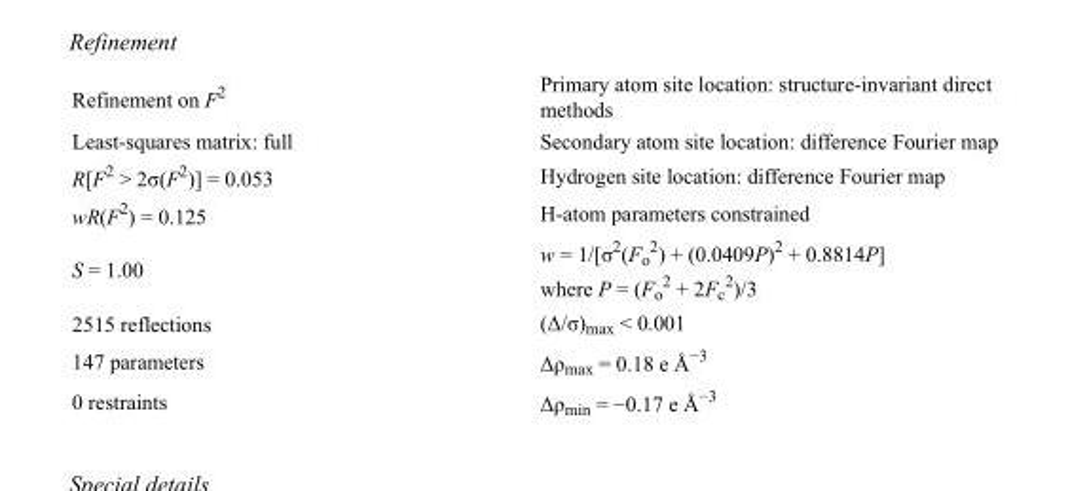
<table><tbody><tr><td>Refinement on F<sup>2</sup></td><td>Primary atom site location: structure-invariant direct methods</td></tr><tr><td>Least-squares matrix: full</td><td>Secondary atom site location: difference Fourier map</td></tr><tr><td>R[F<sup>2</sup> &gt; 2σ(F<sup>2</sup>)] = 0.053</td><td>Hydrogen site location: difference Fourier map</td></tr><tr><td>wR(F<sup>2</sup>) = 0.125</td><td>H-atom parameters constrained</td></tr><tr><td>S = 1.00</td><td>w = 1/[σ<sup>2</sup>(F<sub>o</sub> <sup>2</sup>) + (0.0409P)<sup>2</sup> + 0.8814P] where P = (F<sub>o</sub> <sup>2</sup> + 2F<sub>c</sub> <sup>2</sup>)/3</td></tr><tr><td>2515 reflections</td><td>(Δ/σ)<sub>max</sub> &lt; 0.001</td></tr><tr><td>147 parameters</td><td>Δρ<sub>max</sub> = 0.18 e Å<sup>−3</sup></td></tr><tr><td>0 restraints</td><td>Δρ<sub>min</sub> = −0.17 e Å<sup>−3</sup></td></tr></tbody></table>